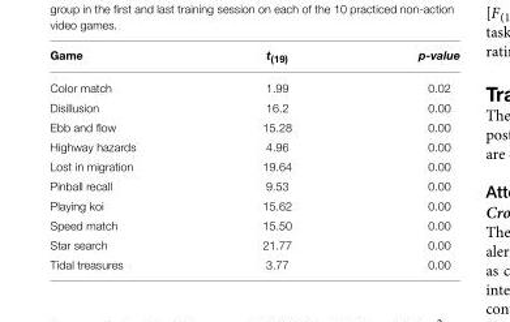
<table><thead><tr><td>Game</td><td>t<sub>(19)</sub></td><td>p-value</td></tr></thead><tbody><tr><td>Color match</td><td>1.99</td><td>0.02</td></tr><tr><td>Disillusion</td><td>16.2</td><td>0.00</td></tr><tr><td>Ebb and flow</td><td>15.28</td><td>0.00</td></tr><tr><td>Highway hazards</td><td>4.96</td><td>0.00</td></tr><tr><td>Lost in migration</td><td>19.64</td><td>0.00</td></tr><tr><td>Pinball recall</td><td>9.53</td><td>0.00</td></tr><tr><td>Playing koi</td><td>15.62</td><td>0.00</td></tr><tr><td>Speed match</td><td>15.50</td><td>0.00</td></tr><tr><td>Star search</td><td>21.77</td><td>0.00</td></tr><tr><td>Tidal treasures</td><td>3.77</td><td>0.00</td></tr></tbody></table>